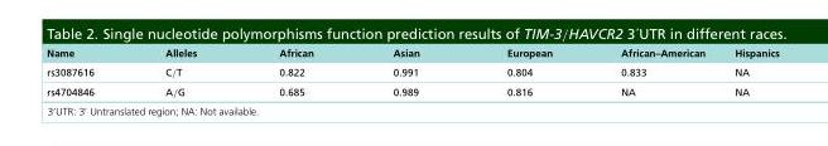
<table><thead><tr><td>Name</td><td>Alleles</td><td>African</td><td>Asian</td><td>European</td><td>African–American</td><td>Hispanics</td></tr></thead><tbody><tr><td>rs3087616</td><td>C/T</td><td>0.822</td><td>0.991</td><td>0.804</td><td>0.833</td><td>NA</td></tr><tr><td>rs4704846</td><td>A/G</td><td>0.685</td><td>0.989</td><td>0.816</td><td>NA</td><td>NA</td></tr></tbody></table>